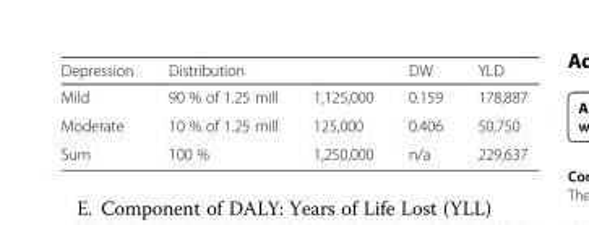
<table><thead><tr><td>Depression</td><td>Distribution</td><td></td><td>DW</td><td>YLD</td></tr></thead><tbody><tr><td>Mild</td><td>90 % of 1.25 mill</td><td>1,125,000</td><td>0.159</td><td>178,887</td></tr><tr><td>Moderate</td><td>10 % of 1.25 mill</td><td>125,000</td><td>0.406</td><td>50,750</td></tr><tr><td>Sum</td><td>100 %</td><td>1,250,000</td><td>n/a</td><td>229,637</td></tr></tbody></table>